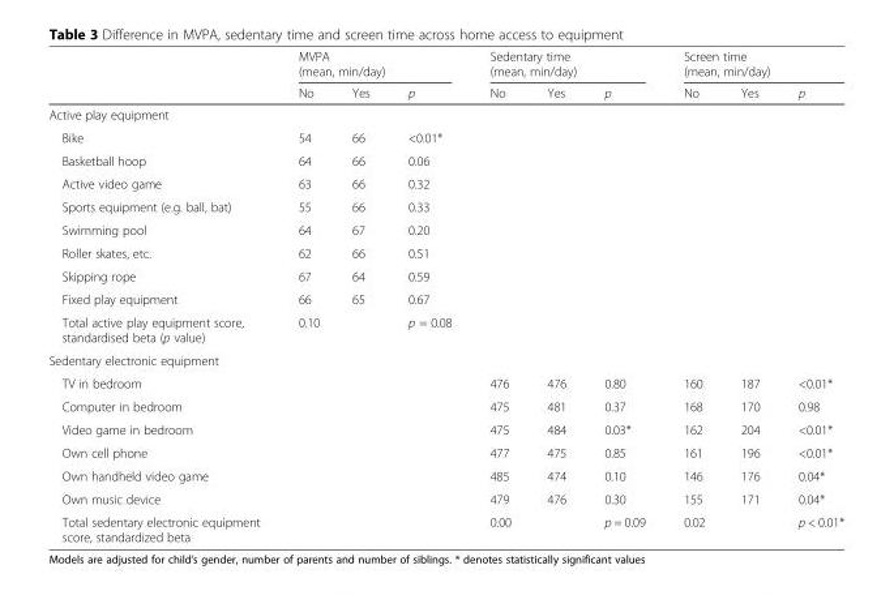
<table><thead><tr><td rowspan="2"></td><td colspan="3">MVPA (mean, min/day)</td><td colspan="3">Sedentary time (mean, min/day)</td><td colspan="3">Screen time (mean, min/day)</td></tr><tr><td>No</td><td>Yes</td><td>p</td><td>No</td><td>Yes</td><td>p</td><td>No</td><td>Yes</td><td>p</td></tr></thead><tbody><tr><td colspan="10">Active play equipment</td></tr><tr><td>Bike</td><td>54</td><td>66</td><td>&lt;0.01*</td><td></td><td></td><td></td><td></td><td></td><td></td></tr><tr><td>Basketball hoop</td><td>64</td><td>66</td><td>0.06</td><td></td><td></td><td></td><td></td><td></td><td></td></tr><tr><td>Active video game</td><td>63</td><td>66</td><td>0.32</td><td></td><td></td><td></td><td></td><td></td><td></td></tr><tr><td>Sports equipment (e.g. ball, bat)</td><td>55</td><td>66</td><td>0.33</td><td></td><td></td><td></td><td></td><td></td><td></td></tr><tr><td>Swimming pool</td><td>64</td><td>67</td><td>0.20</td><td></td><td></td><td></td><td></td><td></td><td></td></tr><tr><td>Roller skates, etc.</td><td>62</td><td>66</td><td>0.51</td><td></td><td></td><td></td><td></td><td></td><td></td></tr><tr><td>Skipping rope</td><td>67</td><td>64</td><td>0.59</td><td></td><td></td><td></td><td></td><td></td><td></td></tr><tr><td>Fixed play equipment</td><td>66</td><td>65</td><td>0.67</td><td></td><td></td><td></td><td></td><td></td><td></td></tr><tr><td>Total active play equipment score, standardised beta (p value)</td><td colspan="2">0.10</td><td>p = 0.08</td><td></td><td></td><td></td><td></td><td></td><td></td></tr><tr><td colspan="10">Sedentary electronic equipment</td></tr><tr><td>TV in bedroom</td><td></td><td></td><td></td><td>476</td><td>476</td><td>0.80</td><td>160</td><td>187</td><td>&lt;0.01*</td></tr><tr><td>Computer in bedroom</td><td></td><td></td><td></td><td>475</td><td>481</td><td>0.37</td><td>168</td><td>170</td><td>0.98</td></tr><tr><td>Video game in bedroom</td><td></td><td></td><td></td><td>475</td><td>484</td><td>0.03*</td><td>162</td><td>204</td><td>&lt;0.01*</td></tr><tr><td>Own cell phone</td><td></td><td></td><td></td><td>477</td><td>475</td><td>0.85</td><td>161</td><td>196</td><td>&lt;0.01*</td></tr><tr><td>Own handheld video game</td><td></td><td></td><td></td><td>485</td><td>474</td><td>0.10</td><td>146</td><td>176</td><td>0.04*</td></tr><tr><td>Own music device</td><td></td><td></td><td></td><td>479</td><td>476</td><td>0.30</td><td>155</td><td>171</td><td>0.04*</td></tr><tr><td>Total sedentary electronic equipment score, standardized beta</td><td></td><td></td><td></td><td colspan="2">0.00</td><td>p = 0.09</td><td colspan="2">0.02</td><td>p &lt; 0.01*</td></tr></tbody></table>